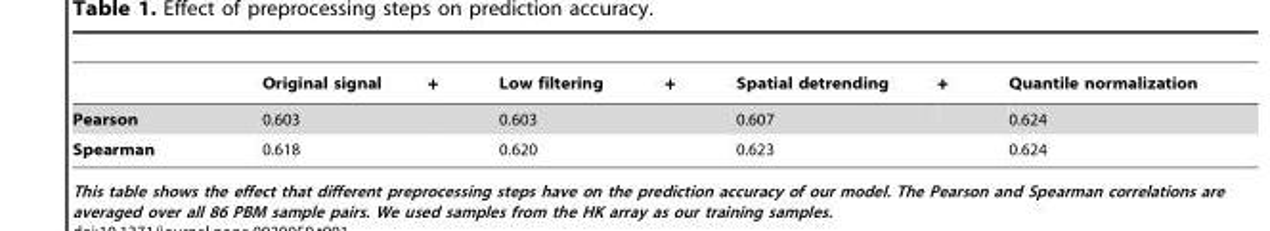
<table><thead><tr><td></td><td>Original signal</td><td>+</td><td>Low filtering</td><td>+</td><td>Spatial detrending</td><td>+</td><td>Quantile normalization</td></tr></thead><tbody><tr><td>Pearson</td><td>0.603</td><td></td><td>0.603</td><td></td><td>0.607</td><td></td><td>0.624</td></tr><tr><td>Spearman</td><td>0.618</td><td></td><td>0.620</td><td></td><td>0.623</td><td></td><td>0.624</td></tr></tbody></table>